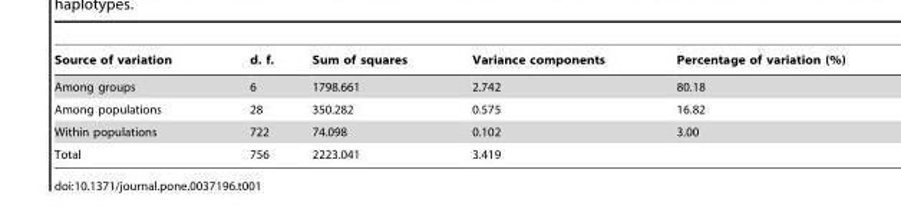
<table><thead><tr><td>Source of variation</td><td>d. f.</td><td>Sum of squares</td><td>Variance components</td><td>Percentage of variation (%)</td></tr></thead><tbody><tr><td>Among groups</td><td>6</td><td>1798.661</td><td>2.742</td><td>80.18</td></tr><tr><td>Among populations</td><td>28</td><td>350.282</td><td>0.575</td><td>16.82</td></tr><tr><td>Within populations</td><td>722</td><td>74.098</td><td>0.102</td><td>3.00</td></tr><tr><td>Total</td><td>756</td><td>2223.041</td><td>3.419</td><td></td></tr></tbody></table>